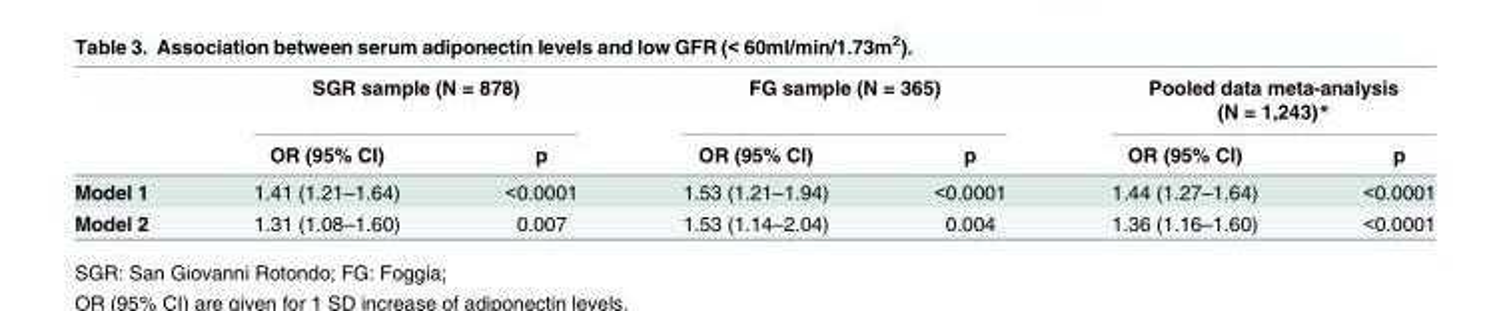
<table><thead><tr><td rowspan="2"></td><td colspan="2">SGR sample (N = 878)</td><td colspan="2">FG sample (N = 365)</td><td colspan="2">Pooled data meta-analysis (N = 1,243)*</td></tr><tr><td>OR (95% CI)</td><td>p</td><td>OR (95% CI)</td><td>p</td><td>OR (95% CI)</td><td>p</td></tr></thead><tbody><tr><td>Model 1</td><td>1.41 (1.21–1.64)</td><td>&lt;0.0001</td><td>1.53 (1.21–1.94)</td><td>&lt;0.0001</td><td>1.44 (1.27–1.64)</td><td>&lt;0.0001</td></tr><tr><td>Model 2</td><td>1.31 (1.08–1.60)</td><td>0.007</td><td>1.53 (1.14–2.04)</td><td>0.004</td><td>1.36 (1.16–1.60)</td><td>&lt;0.0001</td></tr></tbody></table>